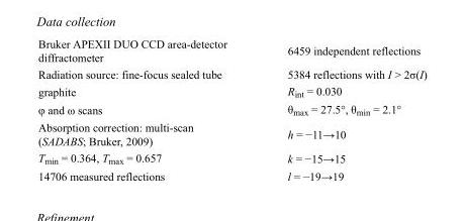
<table><tbody><tr><td>Bruker APEXII DUO CCD area-detector diffractometer</td><td>6459 independent reflections</td></tr><tr><td>Radiation source: fine-focus sealed tube</td><td>5384 reflections with I &gt; 2σ(I)</td></tr><tr><td>graphite</td><td>R<sub>int</sub> = 0.030</td></tr><tr><td>φ and ω scans</td><td>θ<sub>max</sub> = 27.5°, θ<sub>min</sub> = 2.1°</td></tr><tr><td>Absorption correction: multi-scan (SADABS; Bruker, 2009)</td><td>h = −11→10</td></tr><tr><td>T<sub>min</sub> = 0.364, T<sub>max</sub> = 0.657</td><td>k = −15→15</td></tr><tr><td>14706 measured reflections</td><td>l = −19→19</td></tr></tbody></table>